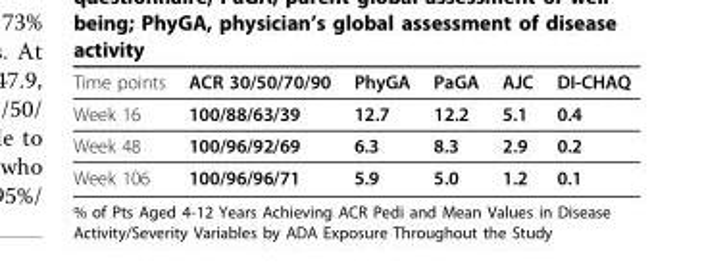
<table><thead><tr><td>Time points</td><td>ACR 30/50/70/90</td><td>PhyGA</td><td>PaGA</td><td>AJC</td><td>DI-CHAQ</td></tr></thead><tbody><tr><td>Week 16</td><td>100/88/63/39</td><td>12.7</td><td>12.2</td><td>5.1</td><td>0.4</td></tr><tr><td>Week 48</td><td>100/96/92/69</td><td>6.3</td><td>8.3</td><td>2.9</td><td>0.2</td></tr><tr><td>Week 106</td><td>100/96/96/71</td><td>5.9</td><td>5.0</td><td>1.2</td><td>0.1</td></tr></tbody></table>